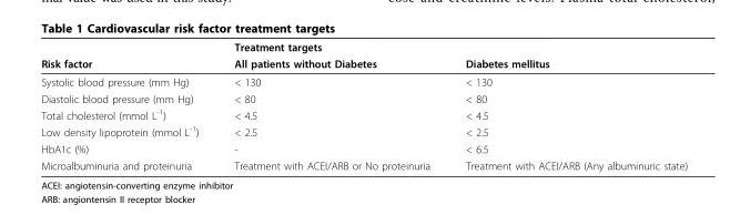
<table><thead><tr><td rowspan="2">Risk factor</td><td rowspan="2">Treatment targets All patients without Diabetes</td><td rowspan="2">Diabetes mellitus</td></tr><tr></tr></thead><tbody><tr><td>Systolic blood pressure (mm Hg)</td><td>&lt; 130</td><td>&lt; 130</td></tr><tr><td>Diastolic blood pressure (mm Hg)</td><td>&lt; 80</td><td>&lt; 80</td></tr><tr><td>Total cholesterol (mmol L<sup>-1</sup>)</td><td>&lt; 4.5</td><td>&lt; 4.5</td></tr><tr><td>Low density lipoprotein (mmol L<sup>-1</sup>)</td><td>&lt; 2.5</td><td>&lt; 2.5</td></tr><tr><td>HbA1c (%)</td><td>-</td><td>&lt; 6.5</td></tr><tr><td>Microalbuminuria and proteinuria</td><td>Treatment with ACEI/ARB or No proteinuria</td><td>Treatment with ACEI/ARB (Any albuminuric state)</td></tr></tbody></table>